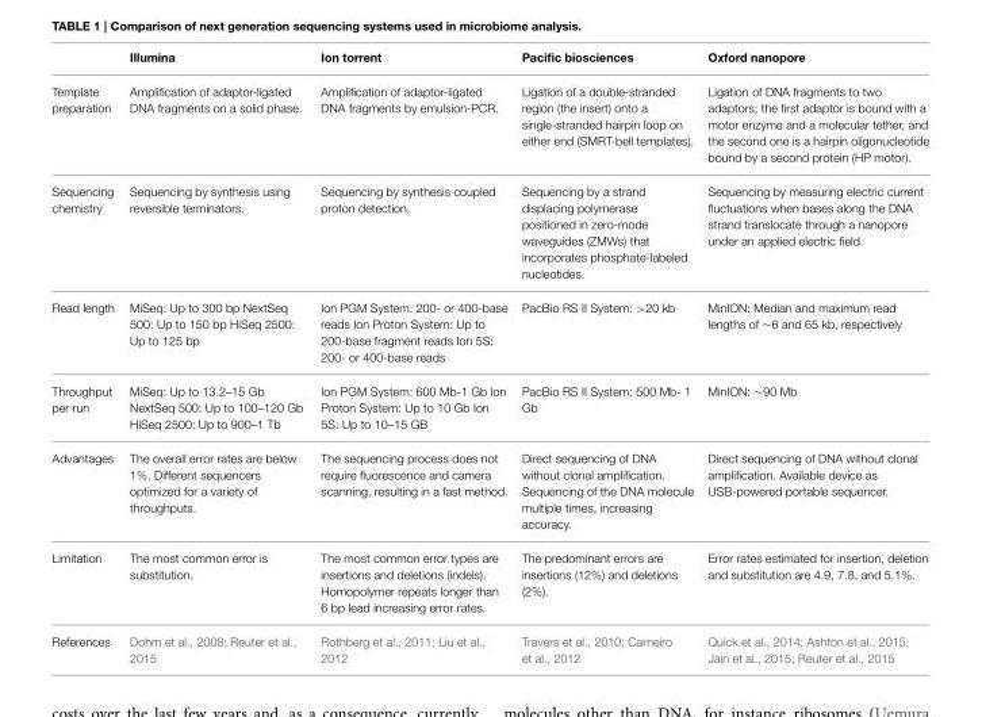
<table><thead><tr><td></td><td>Illumina</td><td>Ion torrent</td><td>Pacific biosciences</td><td>Oxford nanopore</td></tr></thead><tbody><tr><td>Template preparation</td><td>Amplification of adaptor-ligated DNA fragments on a solid phase.</td><td>Amplification of adaptor-ligated DNA fragments by emulsion-PCR.</td><td>Ligation of a double-stranded region (the insert) onto a single-stranded hairpin loop on either end (SMRT-bell templates).</td><td>Ligation of DNA fragments to two adaptors; the first adaptor is bound with a motor enzyme and a molecular tether, and the second one is a hairpin oligonucleotide bound by a second protein (HP motor).</td></tr><tr><td>Sequencing chemistry</td><td>Sequencing by synthesis using reversible terminators.</td><td>Sequencing by synthesis coupled proton detection.</td><td>Sequencing by a strand displacing polymerase positioned in zero-mode waveguides (ZMWs) that incorporates phosphate-labeled nucleotides.</td><td>Sequencing by measuring electric current fluctuations when bases along the DNA strand translocate through a nanopore under an applied electric field.</td></tr><tr><td>Read length</td><td>MiSeq: Up to 300 bp NextSeq 500: Up to 150 bp HiSeq 2500: Up to 125 bp</td><td>Ion PGM System: 200- or 400-base reads Ion Proton System: Up to 200-base fragment reads Ion 5S: 200- or 400-base reads</td><td>PacBio RS II System: &gt;20 kb</td><td>MinION: Median and maximum read lengths of ∼6 and 65 kb, respectively</td></tr><tr><td>Throughput per run</td><td>MiSeq: Up to 13.2–15 Gb NextSeq 500: Up to 100–120 Gb HiSeq 2500: Up to 900–1 Tb</td><td>Ion PGM System: 600 Mb-1 Gb Ion Proton System: Up to 10 Gb Ion 5S: Up to 10–15 GB</td><td>PacBio RS II System: 500 Mb- 1 Gb</td><td>MinION: ∼90 Mb</td></tr><tr><td>Advantages</td><td>The overall error rates are below 1%. Different sequencers optimized for a variety of throughputs.</td><td>The sequencing process does not require fluorescence and camera scanning, resulting in a fast method.</td><td>Direct sequencing of DNA without clonal amplification. Sequencing of the DNA molecule multiple times, increasing accuracy.</td><td>Direct sequencing of DNA without clonal amplification. Available device as USB-powered portable sequencer.</td></tr><tr><td>Limitation</td><td>The most common error is substitution.</td><td>The most common error types are insertions and deletions (indels). Homopolymer repeats longer than 6 bp lead increasing error rates.</td><td>The predominant errors are insertions (12%) and deletions (2%).</td><td>Error rates estimated for insertion, deletion and substitution are 4.9, 7.8, and 5.1%.</td></tr><tr><td>References</td><td>Dohm et al., 2008; Reuter et al., 2015</td><td>Rothberg et al., 2011; Liu et al., 2012</td><td>Travers et al., 2010; Carneiro et al., 2012</td><td>Quick et al., 2014; Ashton et al., 2015; Jain et al., 2015; Reuter et al., 2015</td></tr></tbody></table>